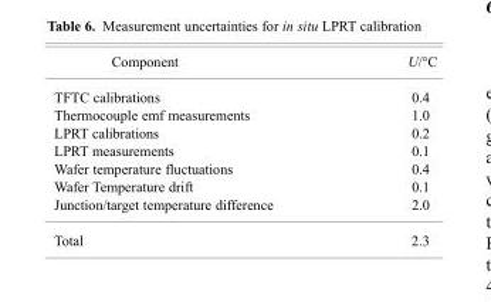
<table><thead><tr><td>Component</td><td>U/°C</td></tr></thead><tbody><tr><td>TFTC calibrations</td><td>0.4</td></tr><tr><td>Thermocouple emf measurements</td><td>1.0</td></tr><tr><td>LPRT calibrations</td><td>0.2</td></tr><tr><td>LPRT measurements</td><td>0.1</td></tr><tr><td>Wafer temperature fluctuations</td><td>0.4</td></tr><tr><td>Wafer Temperature drift</td><td>0.1</td></tr><tr><td>Junction/target temperature difference</td><td>2.0</td></tr><tr><td>Total</td><td>2.3</td></tr></tbody></table>